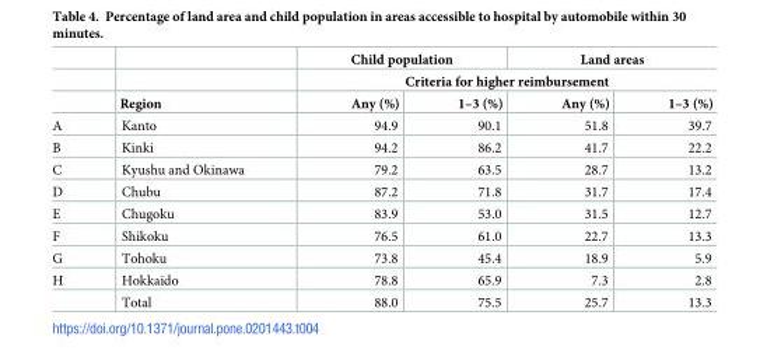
<table><thead><tr><td rowspan="3"></td><td rowspan="3">Region</td><td colspan="2">Child population</td><td colspan="2">Land areas</td></tr><tr><td colspan="4">Criteria for higher reimbursement</td></tr><tr><td>Any (%)</td><td>1–3 (%)</td><td>Any (%)</td><td>1–3 (%)</td></tr></thead><tbody><tr><td>A</td><td>Kanto</td><td>94.9</td><td>90.1</td><td>51.8</td><td>39.7</td></tr><tr><td>B</td><td>Kinki</td><td>94.2</td><td>86.2</td><td>41.7</td><td>22.2</td></tr><tr><td>C</td><td>Kyushu and Okinawa</td><td>79.2</td><td>63.5</td><td>28.7</td><td>13.2</td></tr><tr><td>D</td><td>Chubu</td><td>87.2</td><td>71.8</td><td>31.7</td><td>17.4</td></tr><tr><td>E</td><td>Chugoku</td><td>83.9</td><td>53.0</td><td>31.5</td><td>12.7</td></tr><tr><td>F</td><td>Shikoku</td><td>76.5</td><td>61.0</td><td>22.7</td><td>13.3</td></tr><tr><td>G</td><td>Tohoku</td><td>73.8</td><td>45.4</td><td>18.9</td><td>5.9</td></tr><tr><td rowspan="2">H</td><td>Hokkaido</td><td>78.8</td><td>65.9</td><td>7.3</td><td>2.8</td></tr><tr><td>Total</td><td>88.0</td><td>75.5</td><td>25.7</td><td>13.3</td></tr></tbody></table>